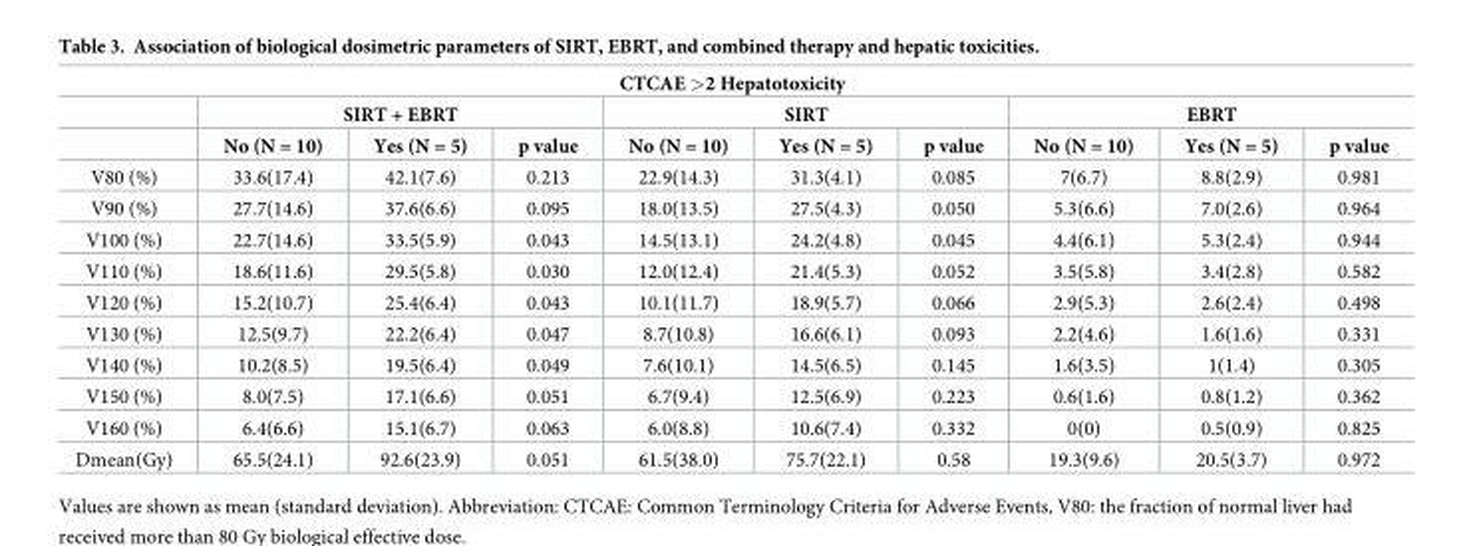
<table><thead><tr><td colspan="10">CTCAE &gt;2 Hepatotoxicity</td></tr><tr><td rowspan="2"></td><td colspan="3">SIRT + EBRT</td><td colspan="3">SIRT</td><td colspan="3">EBRT</td></tr><tr><td>No (N = 10)</td><td>Yes (N = 5)</td><td>p value</td><td>No (N = 10)</td><td>Yes (N = 5)</td><td>p value</td><td>No (N = 10)</td><td>Yes (N = 5)</td><td>p value</td></tr></thead><tbody><tr><td>V80 (%)</td><td>33.6(17.4)</td><td>42.1(7.6)</td><td>0.213</td><td>22.9(14.3)</td><td>31.3(4.1)</td><td>0.085</td><td>7(6.7)</td><td>8.8(2.9)</td><td>0.981</td></tr><tr><td>V90 (%)</td><td>27.7(14.6)</td><td>37.6(6.6)</td><td>0.095</td><td>18.0(13.5)</td><td>27.5(4.3)</td><td>0.050</td><td>5.3(6.6)</td><td>7.0(2.6)</td><td>0.964</td></tr><tr><td>V100 (%)</td><td>22.7(14.6)</td><td>33.5(5.9)</td><td>0.043</td><td>14.5(13.1)</td><td>24.2(4.8)</td><td>0.045</td><td>4.4(6.1)</td><td>5.3(2.4)</td><td>0.944</td></tr><tr><td>V110 (%)</td><td>18.6(11.6)</td><td>29.5(5.8)</td><td>0.030</td><td>12.0(12.4)</td><td>21.4(5.3)</td><td>0.052</td><td>3.5(5.8)</td><td>3.4(2.8)</td><td>0.582</td></tr><tr><td>V120 (%)</td><td>15.2(10.7)</td><td>25.4(6.4)</td><td>0.043</td><td>10.1(11.7)</td><td>18.9(5.7)</td><td>0.066</td><td>2.9(5.3)</td><td>2.6(2.4)</td><td>0.498</td></tr><tr><td>V130 (%)</td><td>12.5(9.7)</td><td>22.2(6.4)</td><td>0.047</td><td>8.7(10.8)</td><td>16.6(6.1)</td><td>0.093</td><td>2.2(4.6)</td><td>1.6(1.6)</td><td>0.331</td></tr><tr><td>V140 (%)</td><td>10.2(8.5)</td><td>19.5(6.4)</td><td>0.049</td><td>7.6(10.1)</td><td>14.5(6.5)</td><td>0.145</td><td>1.6(3.5)</td><td>1(1.4)</td><td>0.305</td></tr><tr><td>V150 (%)</td><td>8.0(7.5)</td><td>17.1(6.6)</td><td>0.051</td><td>6.7(9.4)</td><td>12.5(6.9)</td><td>0.223</td><td>0.6(1.6)</td><td>0.8(1.2)</td><td>0.362</td></tr><tr><td>V160 (%)</td><td>6.4(6.6)</td><td>15.1(6.7)</td><td>0.063</td><td>6.0(8.8)</td><td>10.6(7.4)</td><td>0.332</td><td>0(0)</td><td>0.5(0.9)</td><td>0.825</td></tr><tr><td>Dmean(Gy)</td><td>65.5(24.1)</td><td>92.6(23.9)</td><td>0.051</td><td>61.5(38.0)</td><td>75.7(22.1)</td><td>0.58</td><td>19.3(9.6)</td><td>20.5(3.7)</td><td>0.972</td></tr></tbody></table>